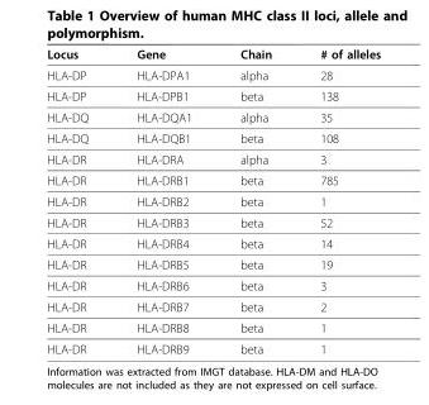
<table><thead><tr><td>Locus</td><td>Gene</td><td>Chain</td><td># of alleles</td></tr></thead><tbody><tr><td>HLA-DP</td><td>HLA-DPA1</td><td>alpha</td><td>28</td></tr><tr><td>HLA-DP</td><td>HLA-DPB1</td><td>beta</td><td>138</td></tr><tr><td>HLA-DQ</td><td>HLA-DQA1</td><td>alpha</td><td>35</td></tr><tr><td>HLA-DQ</td><td>HLA-DQB1</td><td>beta</td><td>108</td></tr><tr><td>HLA-DR</td><td>HLA-DRA</td><td>alpha</td><td>3</td></tr><tr><td>HLA-DR</td><td>HLA-DRB1</td><td>beta</td><td>785</td></tr><tr><td>HLA-DR</td><td>HLA-DRB2</td><td>beta</td><td>1</td></tr><tr><td>HLA-DR</td><td>HLA-DRB3</td><td>beta</td><td>52</td></tr><tr><td>HLA-DR</td><td>HLA-DRB4</td><td>beta</td><td>14</td></tr><tr><td>HLA-DR</td><td>HLA-DRB5</td><td>beta</td><td>19</td></tr><tr><td>HLA-DR</td><td>HLA-DRB6</td><td>beta</td><td>3</td></tr><tr><td>HLA-DR</td><td>HLA-DRB7</td><td>beta</td><td>2</td></tr><tr><td>HLA-DR</td><td>HLA-DRB8</td><td>beta</td><td>1</td></tr><tr><td>HLA-DR</td><td>HLA-DRB9</td><td>beta</td><td>1</td></tr></tbody></table>